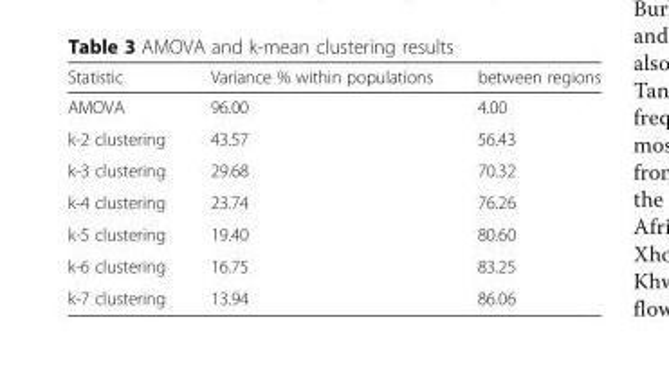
<table><thead><tr><td>Statistic</td><td>Variance % within populations</td><td>between regions</td></tr></thead><tbody><tr><td>AMOVA</td><td>96.00</td><td>4.00</td></tr><tr><td>k-2 clustering</td><td>43.57</td><td>56.43</td></tr><tr><td>k-3 clustering</td><td>29.68</td><td>70.32</td></tr><tr><td>k-4 clustering</td><td>23.74</td><td>76.26</td></tr><tr><td>k-5 clustering</td><td>19.40</td><td>80.60</td></tr><tr><td>k-6 clustering</td><td>16.75</td><td>83.25</td></tr><tr><td>k-7 clustering</td><td>13.94</td><td>86.06</td></tr></tbody></table>